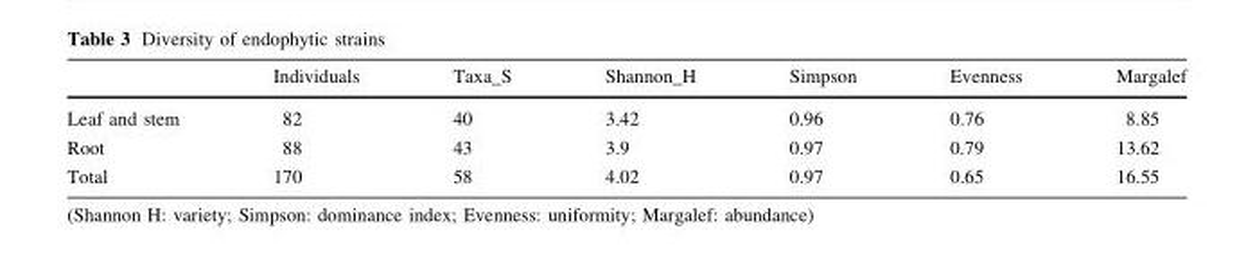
<table><thead><tr><td></td><td>Individuals</td><td>Taxa_S</td><td>Shannon_H</td><td>Simpson</td><td>Evenness</td><td>Margalef</td></tr></thead><tbody><tr><td>Leaf and stem</td><td>82</td><td>40</td><td>3.42</td><td>0.96</td><td>0.76</td><td>8.85</td></tr><tr><td>Root</td><td>88</td><td>43</td><td>3.9</td><td>0.97</td><td>0.79</td><td>13.62</td></tr><tr><td>Total</td><td>170</td><td>58</td><td>4.02</td><td>0.97</td><td>0.65</td><td>16.55</td></tr></tbody></table>